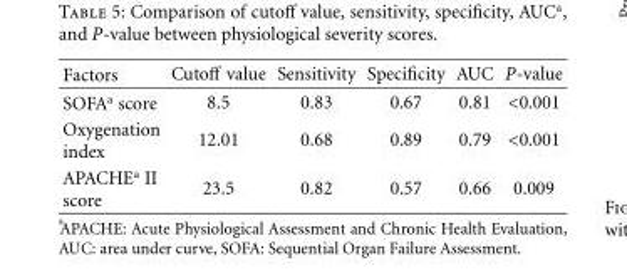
<table><thead><tr><td>Factors</td><td>Cutoff value</td><td>Sensitivity</td><td>Specificity</td><td>AUC</td><td>P-value</td></tr></thead><tbody><tr><td>SOFA<sup>a</sup> score</td><td>8.5</td><td>0.83</td><td>0.67</td><td>0.81</td><td>&lt;0.001</td></tr><tr><td>Oxygenation index</td><td>12.01</td><td>0.68</td><td>0.89</td><td>0.79</td><td>&lt;0.001</td></tr><tr><td>APACHE<sup>a</sup> II score</td><td>23.5</td><td>0.82</td><td>0.57</td><td>0.66</td><td>0.009</td></tr></tbody></table>